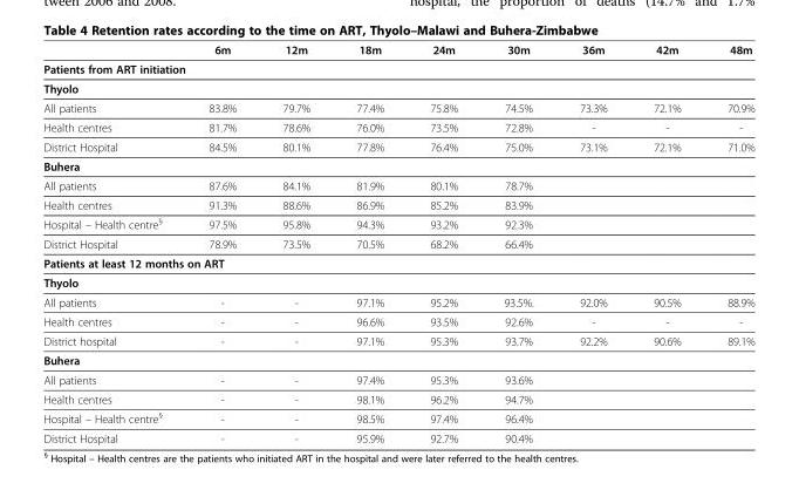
<table><thead><tr><td></td><td>6m</td><td>12m</td><td>18m</td><td>24m</td><td>30m</td><td>36m</td><td>42m</td><td>48m</td></tr></thead><tbody><tr><td colspan="9">Patients from ART initiation</td></tr><tr><td colspan="9">Thyolo</td></tr><tr><td>All patients</td><td>83.8%</td><td>79.7%</td><td>77.4%</td><td>75.8%</td><td>74.5%</td><td>73.3%</td><td>72.1%</td><td>70.9%</td></tr><tr><td>Health centres</td><td>81.7%</td><td>78.6%</td><td>76.0%</td><td>73.5%</td><td>72.8%</td><td>-</td><td>-</td><td>-</td></tr><tr><td>District Hospital</td><td>84.5%</td><td>80.1%</td><td>77.8%</td><td>76.4%</td><td>75.0%</td><td>73.1%</td><td>72.1%</td><td>71.0%</td></tr><tr><td colspan="9">Buhera</td></tr><tr><td>All patients</td><td>87.6%</td><td>84.1%</td><td>81.9%</td><td>80.1%</td><td>78.7%</td><td></td><td></td><td></td></tr><tr><td>Health centres</td><td>91.3%</td><td>88.6%</td><td>86.9%</td><td>85.2%</td><td>83.9%</td><td></td><td></td><td></td></tr><tr><td>Hospital – Health centre§</td><td>97.5%</td><td>95.8%</td><td>94.3%</td><td>93.2%</td><td>92.3%</td><td></td><td></td><td></td></tr><tr><td>District Hospital</td><td>78.9%</td><td>73.5%</td><td>70.5%</td><td>68.2%</td><td>66.4%</td><td></td><td></td><td></td></tr><tr><td colspan="9">Patients at least 12 months on ART</td></tr><tr><td colspan="9">Thyolo</td></tr><tr><td>All patients</td><td>-</td><td>-</td><td>97.1%</td><td>95.2%</td><td>93.5%.</td><td>92.0%</td><td>90.5%</td><td>88.9%</td></tr><tr><td>Health centres</td><td>-</td><td>-</td><td>96.6%</td><td>93.5%</td><td>92.6%</td><td>-</td><td>-</td><td>-</td></tr><tr><td>District hospital</td><td>-</td><td>-</td><td>97.1%</td><td>95.3%</td><td>93.7%</td><td>92.2%</td><td>90.6%</td><td>89.1%</td></tr><tr><td colspan="9">Buhera</td></tr><tr><td>All patients</td><td>-</td><td>-</td><td>97.4%</td><td>95.3%</td><td>93.6%</td><td></td><td></td><td></td></tr><tr><td>Health centres</td><td>-</td><td>-</td><td>98.1%</td><td>96.2%</td><td>94.7%</td><td></td><td></td><td></td></tr><tr><td>Hospital – Health centre§</td><td>-</td><td>-</td><td>98.5%</td><td>97.4%</td><td>96.4%</td><td></td><td></td><td></td></tr><tr><td>District Hospital</td><td>-</td><td>-</td><td>95.9%</td><td>92.7%</td><td>90.4%</td><td></td><td></td><td></td></tr></tbody></table>